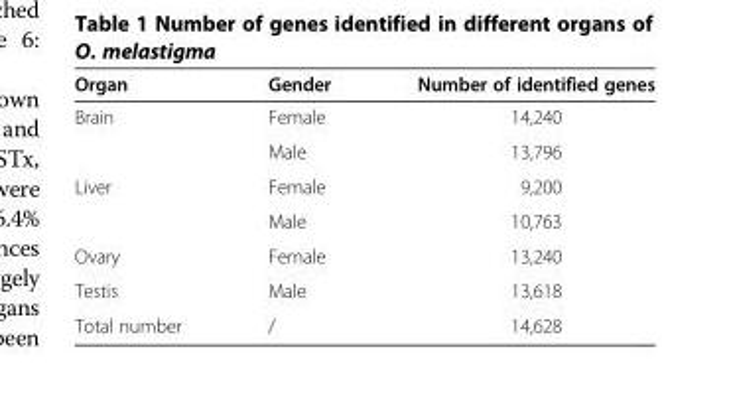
<table><thead><tr><td>Organ</td><td>Gender</td><td>Number of identified genes</td></tr></thead><tbody><tr><td rowspan="2">Brain</td><td>Female</td><td>14,240</td></tr><tr><td>Male</td><td>13,796</td></tr><tr><td rowspan="2">Liver</td><td>Female</td><td>9,200</td></tr><tr><td>Male</td><td>10,763</td></tr><tr><td>Ovary</td><td>Female</td><td>13,240</td></tr><tr><td>Testis</td><td>Male</td><td>13,618</td></tr><tr><td>Total number</td><td>/</td><td>14,628</td></tr></tbody></table>